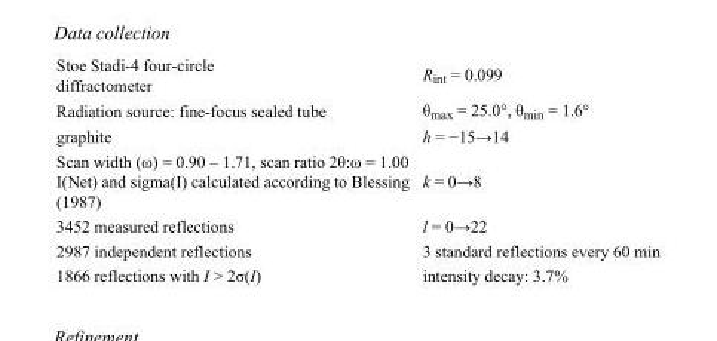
<table><tbody><tr><td>Stoe Stadi-4 four-circle diffractometer</td><td>R<sub>int</sub> = 0.099</td></tr><tr><td>Radiation source: fine-focus sealed tube</td><td>θ<sub>max</sub> = 25.0°, θ<sub>min</sub> = 1.6°</td></tr><tr><td>graphite</td><td>h = −15→14</td></tr><tr><td>Scan width (ω) = 0.90 – 1.71, scan ratio 2θ:ω = 1.00 I(Net) and sigma(I) calculated according to Blessing (1987)</td><td>k = 0→8</td></tr><tr><td>3452 measured reflections</td><td>l = 0→22</td></tr><tr><td>2987 independent reflections</td><td>3 standard reflections every 60 min</td></tr><tr><td>1866 reflections with I &gt; 2σ(I)</td><td>intensity decay: 3.7%</td></tr></tbody></table>